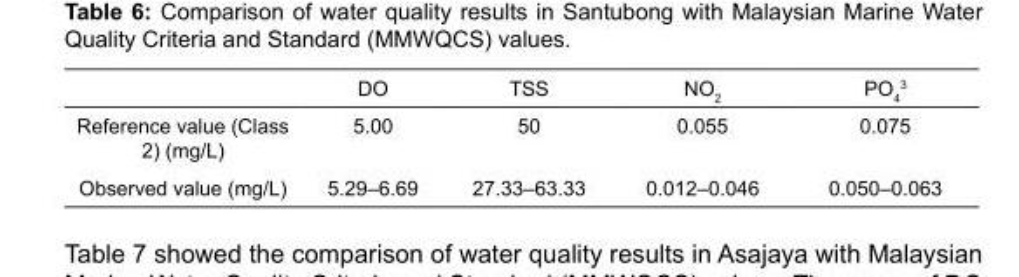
<table><thead><tr><td></td><td>DO</td><td>TSS</td><td>NO<sub>2</sub></td><td>PO<sub>4</sub> <sup>3</sup></td></tr></thead><tbody><tr><td>Reference value (Class 2) (mg/L)</td><td>5.00</td><td>50</td><td>0.055</td><td>0.075</td></tr><tr><td>Observed value (mg/L)</td><td>5.29–6.69</td><td>27.33–63.33</td><td>0.012–0.046</td><td>0.050–0.063</td></tr></tbody></table>